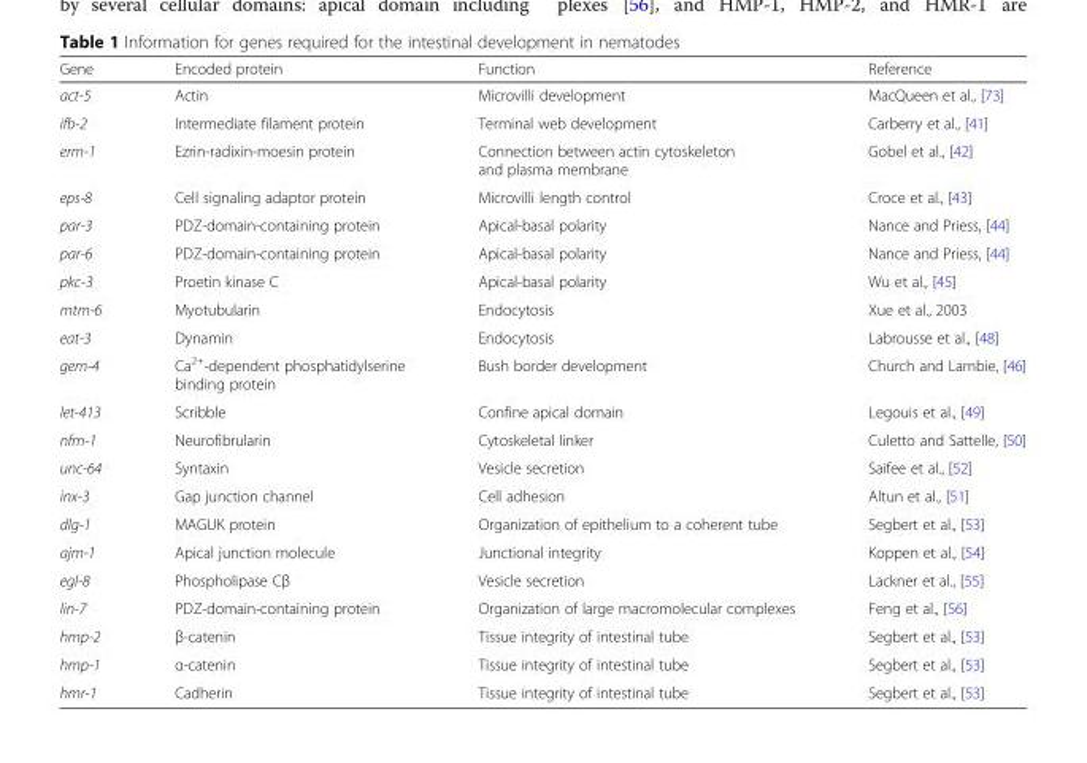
<table><thead><tr><td>Gene</td><td>Encoded protein</td><td>Function</td><td>Reference</td></tr></thead><tbody><tr><td>act-5</td><td>Actin</td><td>Microvilli development</td><td>MacQueen et al., [73]</td></tr><tr><td>ifb-2</td><td>Intermediate filament protein</td><td>Terminal web development</td><td>Carberry et al., [41]</td></tr><tr><td>erm-1</td><td>Ezrin-radixin-moesin protein</td><td>Connection between actin cytoskeleton and plasma membrane</td><td>Gobel et al., [42]</td></tr><tr><td>eps-8</td><td>Cell signaling adaptor protein</td><td>Microvilli length control</td><td>Croce et al., [43]</td></tr><tr><td>par-3</td><td>PDZ-domain-containing protein</td><td>Apical-basal polarity</td><td>Nance and Priess, [44]</td></tr><tr><td>par-6</td><td>PDZ-domain-containing protein</td><td>Apical-basal polarity</td><td>Nance and Priess, [44]</td></tr><tr><td>pkc-3</td><td>Proetin kinase C</td><td>Apical-basal polarity</td><td>Wu et al., [45]</td></tr><tr><td>mtm-6</td><td>Myotubularin</td><td>Endocytosis</td><td>Xue et al., 2003</td></tr><tr><td>eat-3</td><td>Dynamin</td><td>Endocytosis</td><td>Labrousse et al., [48]</td></tr><tr><td>gem-4</td><td>Ca<sup>2+</sup>-dependent phosphatidylserine binding protein</td><td>Bush border development</td><td>Church and Lambie, [46]</td></tr><tr><td>let-413</td><td>Scribble</td><td>Confine apical domain</td><td>Legouis et al., [49]</td></tr><tr><td>nfm-1</td><td>Neurofibrularin</td><td>Cytoskeletal linker</td><td>Culetto and Sattelle, [50]</td></tr><tr><td>unc-64</td><td>Syntaxin</td><td>Vesicle secretion</td><td>Saifee et al., [52]</td></tr><tr><td>inx-3</td><td>Gap junction channel</td><td>Cell adhesion</td><td>Altun et al., [51]</td></tr><tr><td>dlg-1</td><td>MAGUK protein</td><td>Organization of epithelium to a coherent tube</td><td>Segbert et al., [53]</td></tr><tr><td>ajm-1</td><td>Apical junction molecule</td><td>Junctional integrity</td><td>Koppen et al., [54]</td></tr><tr><td>egl-8</td><td>Phospholipase Cβ</td><td>Vesicle secretion</td><td>Lackner et al., [55]</td></tr><tr><td>lin-7</td><td>PDZ-domain-containing protein</td><td>Organization of large macromolecular complexes</td><td>Feng et al., [56]</td></tr><tr><td>hmp-2</td><td>β-catenin</td><td>Tissue integrity of intestinal tube</td><td>Segbert et al., [53]</td></tr><tr><td>hmp-1</td><td>α-catenin</td><td>Tissue integrity of intestinal tube</td><td>Segbert et al., [53]</td></tr><tr><td>hmr-1</td><td>Cadherin</td><td>Tissue integrity of intestinal tube</td><td>Segbert et al., [53]</td></tr></tbody></table>